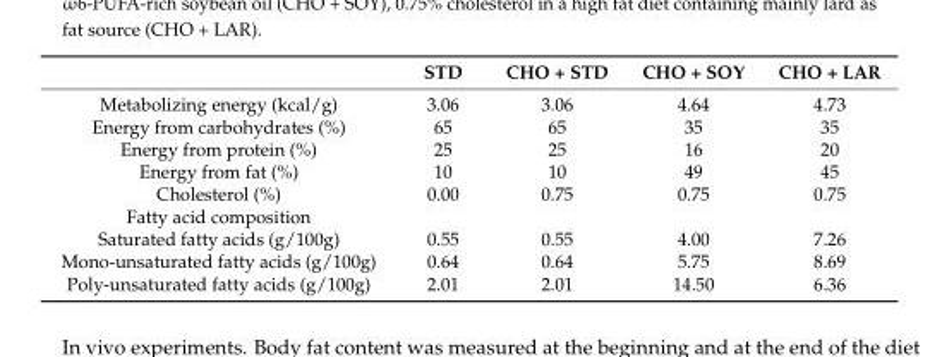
<table><thead><tr><td></td><td>STD</td><td>CHO + STD</td><td>CHO + SOY</td><td>CHO + LAR</td></tr></thead><tbody><tr><td>Metabolizing energy (kcal/g)</td><td>3.06</td><td>3.06</td><td>4.64</td><td>4.73</td></tr><tr><td>Energy from carbohydrates (%)</td><td>65</td><td>65</td><td>35</td><td>35</td></tr><tr><td>Energy from protein (%)</td><td>25</td><td>25</td><td>16</td><td>20</td></tr><tr><td>Energy from fat (%)</td><td>10</td><td>10</td><td>49</td><td>45</td></tr><tr><td>Cholesterol (%)</td><td>0.00</td><td>0.75</td><td>0.75</td><td>0.75</td></tr><tr><td colspan="5">Fatty acid composition</td></tr><tr><td>Saturated fatty acids (g/100g)</td><td>0.55</td><td>0.55</td><td>4.00</td><td>7.26</td></tr><tr><td>Mono-unsaturated fatty acids (g/100g)</td><td>0.64</td><td>0.64</td><td>5.75</td><td>8.69</td></tr><tr><td>Poly-unsaturated fatty acids (g/100g)</td><td>2.01</td><td>2.01</td><td>14.50</td><td>6.36</td></tr></tbody></table>